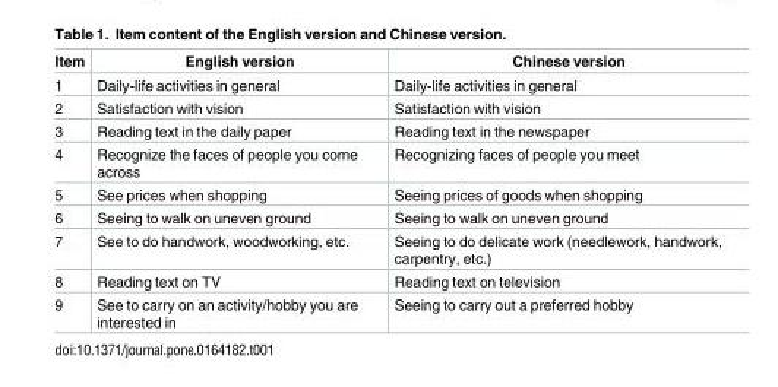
<table><thead><tr><td>Item</td><td>English version</td><td>Chinese version</td></tr></thead><tbody><tr><td>1</td><td>Daily-life activities in general</td><td>Daily-life activities in general</td></tr><tr><td>2</td><td>Satisfaction with vision</td><td>Satisfaction with vision</td></tr><tr><td>3</td><td>Reading text in the daily paper</td><td>Reading text in the newspaper</td></tr><tr><td>4</td><td>Recognize the faces of people you come across</td><td>Recognizing faces of people you meet</td></tr><tr><td>5</td><td>See prices when shopping</td><td>Seeing prices of goods when shopping</td></tr><tr><td>6</td><td>Seeing to walk on uneven ground</td><td>Seeing to walk on uneven ground</td></tr><tr><td>7</td><td>See to do handwork, woodworking, etc.</td><td>Seeing to do delicate work (needlework, handwork, carpentry, etc.)</td></tr><tr><td>8</td><td>Reading text on TV</td><td>Reading text on television</td></tr><tr><td>9</td><td>See to carry on an activity/hobby you are interested in</td><td>Seeing to carry out a preferred hobby</td></tr></tbody></table>